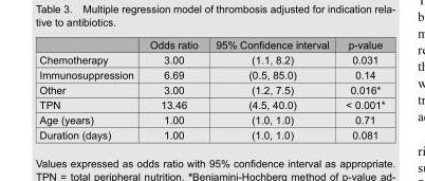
<table><thead><tr><td></td><td>Odds ratio</td><td>95% Confidence interval</td><td>p-value</td></tr></thead><tbody><tr><td>Chemotherapy</td><td>3.00</td><td>(1.1, 8.2)</td><td>0.031</td></tr><tr><td>Immunosuppression</td><td>6.69</td><td>(0.5, 85.0)</td><td>0.14</td></tr><tr><td>Other</td><td>3.00</td><td>(1.2, 7.5)</td><td>0.016*</td></tr><tr><td>TPN</td><td>13.46</td><td>(4.5, 40.0)</td><td>&lt; 0.001*</td></tr><tr><td>Age (years)</td><td>1.00</td><td>(1.0, 1.0)</td><td>0.71</td></tr><tr><td>Duration (days)</td><td>1.00</td><td>(1.0, 1.0)</td><td>0.081</td></tr></tbody></table>